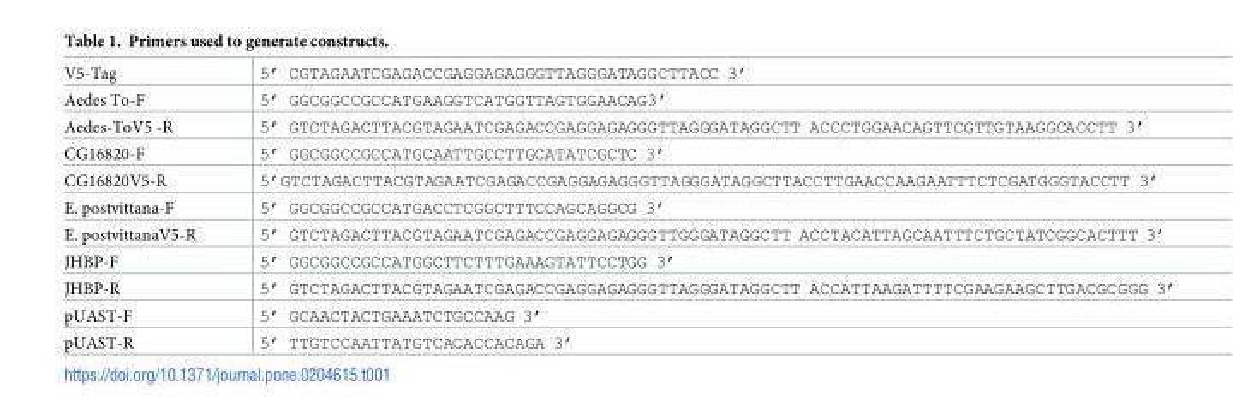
<table><tbody><tr><td>V5-Tag</td><td>5’ CGTAGAATCGAGACCGAGGAGAGGGTTAGGGATAGGCTTACC 3’</td></tr><tr><td>Aedes To-F</td><td>5’ GGCGGCCGCCATGAAGGTCATGGTTAGTGGAACAG3’</td></tr><tr><td>Aedes-ToV5 -R</td><td>5’ GTCTAGACTTACGTAGAATCGAGACCGAGGAGAGGGTTAGGGATAGGCTT ACCCTGGAACAGTTCGTTGTAAGGCACCTT 3’</td></tr><tr><td>CG16820-F</td><td>5’ GGCGGCCGCCATGCAATTGCCTTGCATATCGCTC 3’</td></tr><tr><td>CG16820V5-R</td><td>5’GTCTAGACTTACGTAGAATCGAGACCGAGGAGAGGGTTAGGGATAGGCTTACCTTGAACCAAGAATTTCTCGATGGGTACCTT 3’</td></tr><tr><td>E. postvittana-F</td><td>5’ GGCGGCCGCCATGACCTCGGCTTTCCAGCAGGCG 3’</td></tr><tr><td>E. postvittanaV5-R</td><td>5’ GTCTAGACTTACGTAGAATCGAGACCGAGGAGAGGGTTGGGATAGGCTT ACCTACATTAGCAATTTCTGCTATCGGCACTTT 3’</td></tr><tr><td>JHBP-F</td><td>5’ GGCGGCCGCCATGGCTTCTTTGAAAGTATTCCTGG 3’</td></tr><tr><td>JHBP-R</td><td>5’ GTCTAGACTTACGTAGAATCGAGACCGAGGAGAGGGTTAGGGATAGGCTT ACCATTAAGATTTTCGAAGAAGCTTGACGCGGG 3’</td></tr><tr><td>pUAST-F</td><td>5’ GCAACTACTGAAATCTGCCAAG 3’</td></tr><tr><td>pUAST-R</td><td>5’ TTGTCCAATTATGTCACACCACAGA 3’</td></tr></tbody></table>